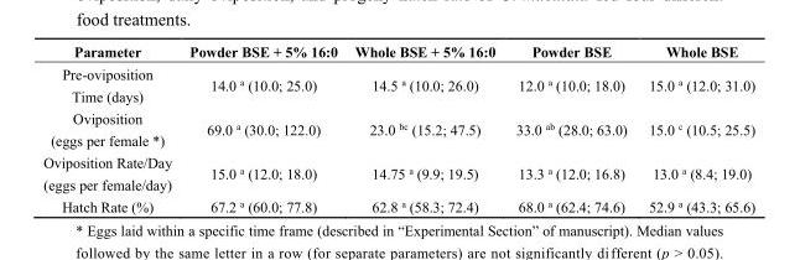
<table><thead><tr><td>Parameter</td><td>Powder BSE + 5% 16:0</td><td>Whole BSE + 5% 16:0</td><td>Powder BSE</td><td>Whole BSE</td></tr></thead><tbody><tr><td>Pre-oviposition Time (days)</td><td>14.0 <sup>a</sup> (10.0; 25.0)</td><td>14.5 <sup>a</sup> (10.0; 26.0)</td><td>12.0 <sup>a</sup> (10.0; 18.0)</td><td>15.0 <sup>a</sup> (12.0; 31.0)</td></tr><tr><td>Oviposition (eggs per female *)</td><td>69.0 <sup>a</sup> (30.0; 122.0)</td><td>23.0 <sup>bc</sup> (15.2; 47.5)</td><td>33.0 <sup>ab</sup> (28.0; 63.0)</td><td>15.0 <sup>c</sup> (10.5; 25.5)</td></tr><tr><td>Oviposition Rate/Day (eggs per female/day)</td><td>15.0 <sup>a</sup> (12.0; 18.0)</td><td>14.75 <sup>a</sup> (9.9; 19.5)</td><td>13.3 <sup>a</sup> (12.0; 16.8)</td><td>13.0 <sup>a</sup> (8.4; 19.0)</td></tr><tr><td>Hatch Rate (%)</td><td>67.2 <sup>a</sup> (60.0; 77.8)</td><td>62.8 <sup>a</sup> (58.3; 72.4)</td><td>68.0 <sup>a</sup> (62.4; 74.6)</td><td>52.9 <sup>a</sup> (43.3; 65.6)</td></tr></tbody></table>